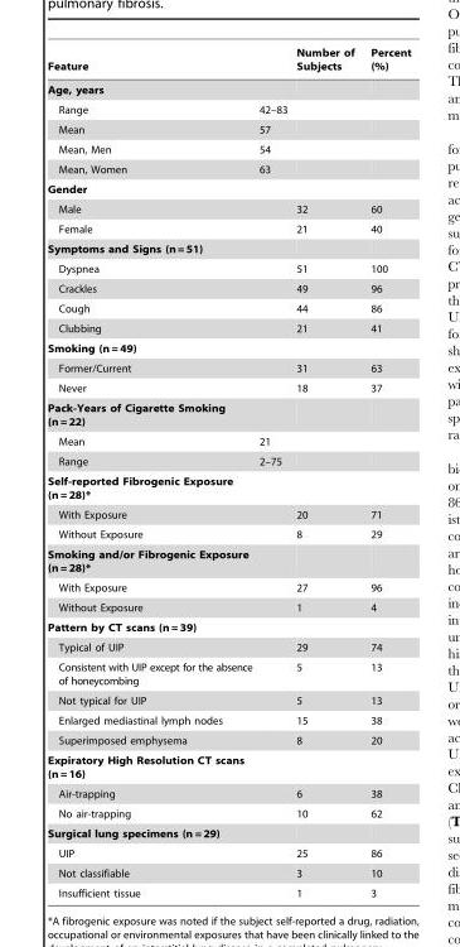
<table><thead><tr><td>Feature</td><td></td><td>Number of Subjects</td><td>Percent (%)</td></tr></thead><tbody><tr><td colspan="4">Age, years</td></tr><tr><td>Range</td><td>42–83</td><td></td><td></td></tr><tr><td>Mean</td><td>57</td><td></td><td></td></tr><tr><td>Mean, Men</td><td>54</td><td></td><td></td></tr><tr><td>Mean, Women</td><td>63</td><td></td><td></td></tr><tr><td colspan="4">Gender</td></tr><tr><td>Male</td><td></td><td>32</td><td>60</td></tr><tr><td>Female</td><td></td><td>21</td><td>40</td></tr><tr><td colspan="4">Symptoms and Signs (n = 51)</td></tr><tr><td>Dyspnea</td><td></td><td>51</td><td>100</td></tr><tr><td>Crackles</td><td></td><td>49</td><td>96</td></tr><tr><td>Cough</td><td></td><td>44</td><td>86</td></tr><tr><td>Clubbing</td><td></td><td>21</td><td>41</td></tr><tr><td colspan="4">Smoking (n = 49)</td></tr><tr><td>Former/Current</td><td></td><td>31</td><td>63</td></tr><tr><td>Never</td><td></td><td>18</td><td>37</td></tr><tr><td colspan="4">Pack-Years of Cigarette Smoking (n = 22)</td></tr><tr><td>Mean</td><td>21</td><td></td><td></td></tr><tr><td>Range</td><td>2–75</td><td></td><td></td></tr><tr><td colspan="4">Self-reported Fibrogenic Exposure (n = 28)*</td></tr><tr><td>With Exposure</td><td></td><td>20</td><td>71</td></tr><tr><td>Without Exposure</td><td></td><td>8</td><td>29</td></tr><tr><td colspan="4">Smoking and/or Fibrogenic Exposure (n = 28)*</td></tr><tr><td>With Exposure</td><td></td><td>27</td><td>96</td></tr><tr><td>Without Exposure</td><td></td><td>1</td><td>4</td></tr><tr><td colspan="4">Pattern by CT scans (n = 39)</td></tr><tr><td>Typical of UIP</td><td></td><td>29</td><td>74</td></tr><tr><td>Consistent with UIP except for the absence of honeycombing</td><td></td><td>5</td><td>13</td></tr><tr><td>Not typical for UIP</td><td></td><td>5</td><td>13</td></tr><tr><td>Enlarged mediastinal lymph nodes</td><td></td><td>15</td><td>38</td></tr><tr><td>Superimposed emphysema</td><td></td><td>8</td><td>20</td></tr><tr><td colspan="4">Expiratory High Resolution CT scans (n = 16)</td></tr><tr><td>Air-trapping</td><td></td><td>6</td><td>38</td></tr><tr><td>No air-trapping</td><td></td><td>10</td><td>62</td></tr><tr><td colspan="4">Surgical lung specimens (n = 29)</td></tr><tr><td>UIP</td><td></td><td>25</td><td>86</td></tr><tr><td>Not classifiable</td><td></td><td>3</td><td>10</td></tr><tr><td>Insufficient tissue</td><td></td><td>1</td><td>3</td></tr></tbody></table>